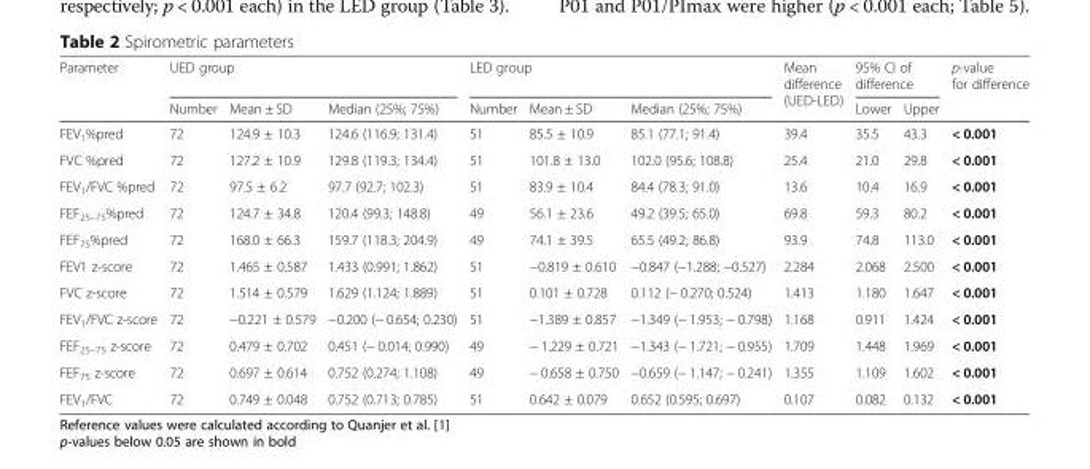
<table><thead><tr><td rowspan="2">Parameter</td><td colspan="3">UED group</td><td colspan="3">LED group</td><td rowspan="2">Mean difference (UED-LED)</td><td colspan="2">95% CI of difference</td><td rowspan="2">p-value for difference</td></tr><tr><td>Number</td><td>Mean ± SD</td><td>Median (25%; 75%)</td><td>Number</td><td>Mean ± SD</td><td>Median (25%; 75%)</td><td>Lower</td><td>Upper</td></tr></thead><tbody><tr><td>FEV<sub>1</sub>%pred</td><td>72</td><td>124.9 ± 10.3</td><td>124.6 (116.9; 131.4)</td><td>51</td><td>85.5 ± 10.9</td><td>85.1 (77.1; 91.4)</td><td>39.4</td><td>35.5</td><td>43.3</td><td>&lt; 0.001</td></tr><tr><td>FVC %pred</td><td>72</td><td>127.2 ± 10.9</td><td>129.8 (119.3; 134.4)</td><td>51</td><td>101.8 ± 13.0</td><td>102.0 (95.6; 108.8)</td><td>25.4</td><td>21.0</td><td>29.8</td><td>&lt; 0.001</td></tr><tr><td>FEV<sub>1</sub>/FVC %pred</td><td>72</td><td>97.5 ± 6.2</td><td>97.7 (92.7; 102.3)</td><td>51</td><td>83.9 ± 10.4</td><td>84.4 (78.3; 91.0)</td><td>13.6</td><td>10.4</td><td>16.9</td><td>&lt; 0.001</td></tr><tr><td>FEF<sub>25–75</sub>%pred</td><td>72</td><td>124.7 ± 34.8</td><td>120.4 (99.3; 148.8)</td><td>49</td><td>56.1 ± 23.6</td><td>49.2 (39.5; 65.0)</td><td>69.8</td><td>59.3</td><td>80.2</td><td>&lt; 0.001</td></tr><tr><td>FEF<sub>75</sub>%pred</td><td>72</td><td>168.0 ± 66.3</td><td>159.7 (118.3; 204.9)</td><td>49</td><td>74.1 ± 39.5</td><td>65.5 (49.2; 86.8)</td><td>93.9</td><td>74.8</td><td>113.0</td><td>&lt; 0.001</td></tr><tr><td>FEV1 z-score</td><td>72</td><td>1.465 ± 0.587</td><td>1.433 (0.991; 1.862)</td><td>51</td><td>−0.819 ± 0.610</td><td>−0.847 (−1.288; −0.527)</td><td>2.284</td><td>2.068</td><td>2.500</td><td>&lt; 0.001</td></tr><tr><td>FVC z-score</td><td>72</td><td>1.514 ± 0.579</td><td>1.629 (1.124; 1.889)</td><td>51</td><td>0.101 ± 0.728</td><td>0.112 (− 0.270; 0.524)</td><td>1.413</td><td>1.180</td><td>1.647</td><td>&lt; 0.001</td></tr><tr><td>FEV<sub>1</sub>/FVC z-score</td><td>72</td><td>−0.221 ± 0.579</td><td>−0.200 (− 0.654; 0.230)</td><td>51</td><td>−1.389 ± 0.857</td><td>−1.349 (− 1.953; − 0.798)</td><td>1.168</td><td>0.911</td><td>1.424</td><td>&lt; 0.001</td></tr><tr><td>FEF<sub>25–75</sub> z-score</td><td>72</td><td>0.479 ± 0.702</td><td>0.451 (− 0.014; 0.990)</td><td>49</td><td>− 1.229 ± 0.721</td><td>−1.343 (− 1.721; − 0.955)</td><td>1.709</td><td>1.448</td><td>1.969</td><td>&lt; 0.001</td></tr><tr><td>FEF<sub>75</sub> z-score</td><td>72</td><td>0.697 ± 0.614</td><td>0.752 (0.274; 1.108)</td><td>49</td><td>− 0.658 ± 0.750</td><td>−0.659 (− 1.147; − 0.241)</td><td>1.355</td><td>1.109</td><td>1.602</td><td>&lt; 0.001</td></tr><tr><td>FEV<sub>1</sub>/FVC</td><td>72</td><td>0.749 ± 0.048</td><td>0.752 (0.713; 0.785)</td><td>51</td><td>0.642 ± 0.079</td><td>0.652 (0.595; 0.697)</td><td>0.107</td><td>0.082</td><td>0.132</td><td>&lt; 0.001</td></tr></tbody></table>